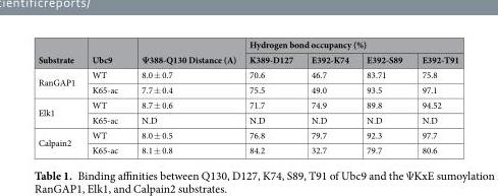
<table><thead><tr><td rowspan="2">Substrate</td><td rowspan="2">Ubc9</td><td rowspan="2">Ψ388-Q130 Distance (A)</td><td colspan="4">Hydrogen bond occupancy (%)</td></tr><tr><td>K389-D127</td><td>E392-K74</td><td>E392-S89</td><td>E392-T91</td></tr></thead><tbody><tr><td rowspan="2">RanGAP1</td><td>WT</td><td>8.0 ± 0.7</td><td>70.6</td><td>46.7</td><td>83.71</td><td>75.8</td></tr><tr><td>K65-ac</td><td>7.7 ± 0.4</td><td>75.5</td><td>49.0</td><td>93.5</td><td>97.1</td></tr><tr><td rowspan="2">Elk1</td><td>WT</td><td>8.7 ± 0.6</td><td>71.7</td><td>74.9</td><td>89.8</td><td>94.52</td></tr><tr><td>K65-ac</td><td>N.D</td><td>N.D</td><td>N.D</td><td>N.D</td><td>N.D</td></tr><tr><td rowspan="2">Calpain2</td><td>WT</td><td>8.0 ± 0.5</td><td>76.8</td><td>79.7</td><td>92.3</td><td>97.7</td></tr><tr><td>K65-ac</td><td>8.1 ± 0.8</td><td>84.2</td><td>32.7</td><td>79.7</td><td>80.6</td></tr></tbody></table>